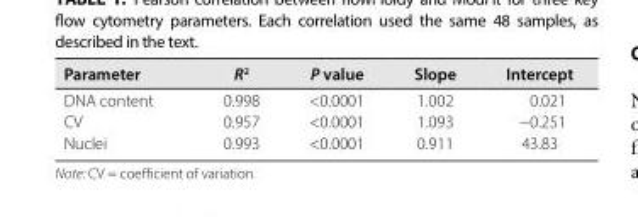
<table><thead><tr><td>Parameter</td><td>R<sup>2</sup></td><td>P value</td><td>Slope</td><td>Intercept</td></tr></thead><tbody><tr><td>DNA content</td><td>0.998</td><td>&lt;0.0001</td><td>1.002</td><td>0.021</td></tr><tr><td>CV</td><td>0.957</td><td>&lt;0.0001</td><td>1.093</td><td>−0.251</td></tr><tr><td>Nuclei</td><td>0.993</td><td>&lt;0.0001</td><td>0.911</td><td>43.83</td></tr></tbody></table>